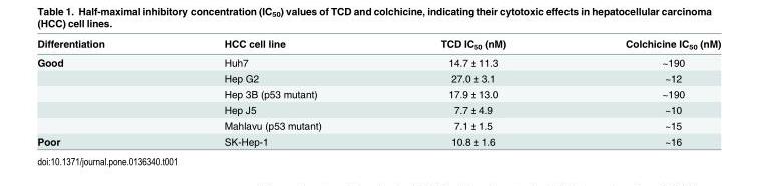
<table><thead><tr><td>Differentiation</td><td>HCC cell line</td><td>TCD IC<sub>50</sub> (nM)</td><td>Colchicine IC<sub>50</sub> (nM)</td></tr></thead><tbody><tr><td rowspan="5">Good</td><td>Huh7</td><td>14.7 ± 11.3</td><td>~190</td></tr><tr><td>Hep G2</td><td>27.0 ± 3.1</td><td>~12</td></tr><tr><td>Hep 3B (p53 mutant)</td><td>17.9 ± 13.0</td><td>~190</td></tr><tr><td>Hep J5</td><td>7.7 ± 4.9</td><td>~10</td></tr><tr><td>Mahlavu (p53 mutant)</td><td>7.1 ± 1.5</td><td>~15</td></tr><tr><td>Poor</td><td>SK-Hep-1</td><td>10.8 ± 1.6</td><td>~16</td></tr></tbody></table>